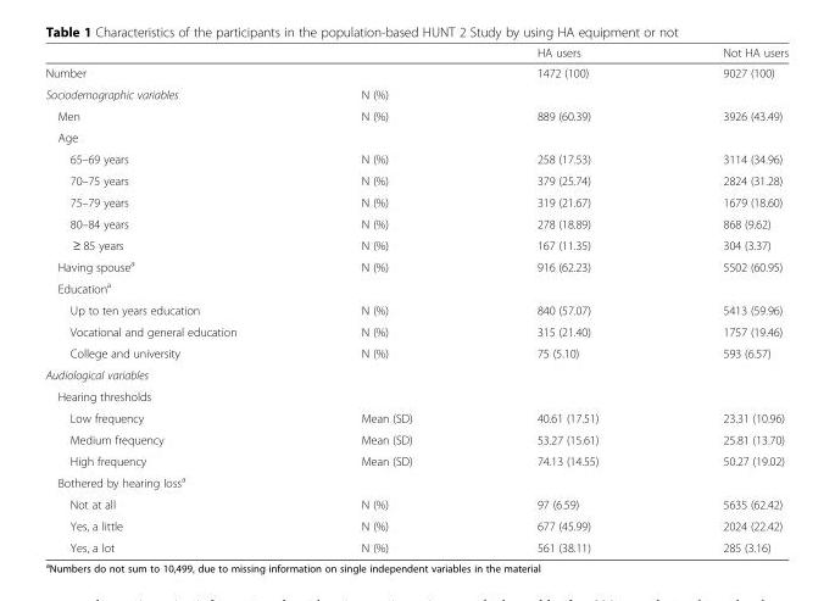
<table><thead><tr><td></td><td></td><td>HA users</td><td>Not HA users</td></tr></thead><tbody><tr><td colspan="2">Number</td><td>1472 (100)</td><td>9027 (100)</td></tr><tr><td>Sociodemographic variables</td><td>N (%)</td><td></td><td></td></tr><tr><td>Men</td><td>N (%)</td><td>889 (60.39)</td><td>3926 (43.49)</td></tr><tr><td colspan="4">Age</td></tr><tr><td>65–69 years</td><td>N (%)</td><td>258 (17.53)</td><td>3114 (34.96)</td></tr><tr><td>70–75 years</td><td>N (%)</td><td>379 (25.74)</td><td>2824 (31.28)</td></tr><tr><td>75–79 years</td><td>N (%)</td><td>319 (21.67)</td><td>1679 (18.60)</td></tr><tr><td>80–84 years</td><td>N (%)</td><td>278 (18.89)</td><td>868 (9.62)</td></tr><tr><td>≥ 85 years</td><td>N (%)</td><td>167 (11.35)</td><td>304 (3.37)</td></tr><tr><td>Having spouse<sup>a</sup></td><td>N (%)</td><td>916 (62.23)</td><td>5502 (60.95)</td></tr><tr><td colspan="4">Education<sup>a</sup></td></tr><tr><td>Up to ten years education</td><td>N (%)</td><td>840 (57.07)</td><td>5413 (59.96)</td></tr><tr><td>Vocational and general education</td><td>N (%)</td><td>315 (21.40)</td><td>1757 (19.46)</td></tr><tr><td>College and university</td><td>N (%)</td><td>75 (5.10)</td><td>593 (6.57)</td></tr><tr><td colspan="4">Audiological variables</td></tr><tr><td colspan="4">Hearing thresholds</td></tr><tr><td>Low frequency</td><td>Mean (SD)</td><td>40.61 (17.51)</td><td>23.31 (10.96)</td></tr><tr><td>Medium frequency</td><td>Mean (SD)</td><td>53.27 (15.61)</td><td>25.81 (13.70)</td></tr><tr><td>High frequency</td><td>Mean (SD)</td><td>74.13 (14.55)</td><td>50.27 (19.02)</td></tr><tr><td colspan="4">Bothered by hearing loss<sup>a</sup></td></tr><tr><td>Not at all</td><td>N (%)</td><td>97 (6.59)</td><td>5635 (62.42)</td></tr><tr><td>Yes, a little</td><td>N (%)</td><td>677 (45.99)</td><td>2024 (22.42)</td></tr><tr><td>Yes, a lot</td><td>N (%)</td><td>561 (38.11)</td><td>285 (3.16)</td></tr></tbody></table>